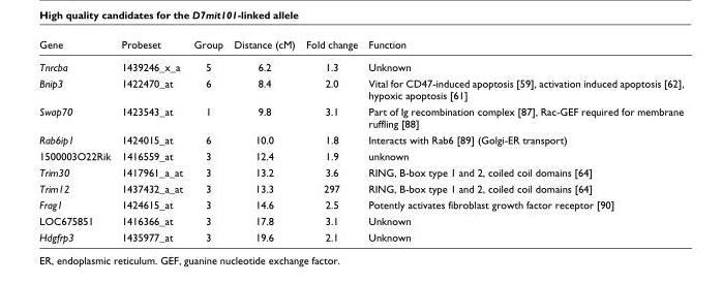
<table><thead><tr><td>Gene</td><td>Probeset</td><td>Group</td><td>Distance (cM)</td><td>Fold change</td><td>Function</td></tr></thead><tbody><tr><td>Tnrcba</td><td>1439246_x_a</td><td>5</td><td>6.2</td><td>1.3</td><td>Unknown</td></tr><tr><td>Bnip3</td><td>1422470_at</td><td>6</td><td>8.4</td><td>2.0</td><td>Vital for CD47-induced apoptosis [59], activation induced apoptosis [62], hypoxic apoptosis [61]</td></tr><tr><td>Swap70</td><td>1423543_at</td><td>1</td><td>9.8</td><td>3.1</td><td>Part of Ig recombination complex [87], Rac-GEF required for membrane ruffling [88]</td></tr><tr><td>Rab6ip1</td><td>1424015_at</td><td>6</td><td>10.0</td><td>1.8</td><td>Interacts with Rab6 [89] (Golgi-ER transport)</td></tr><tr><td>1500003O22Rik</td><td>1416559_at</td><td>3</td><td>12.4</td><td>1.9</td><td>unknown</td></tr><tr><td>Trim30</td><td>1417961_a_at</td><td>3</td><td>13.2</td><td>3.6</td><td>RING, B-box type 1 and 2, coiled coil domains [64]</td></tr><tr><td>Trim12</td><td>1437432_a_at</td><td>3</td><td>13.3</td><td>297</td><td>RING, B-box type 1 and 2, coiled coil domains [64]</td></tr><tr><td>Frag1</td><td>1424615_at</td><td>3</td><td>14.6</td><td>2.5</td><td>Potently activates fibroblast growth factor receptor [90]</td></tr><tr><td>LOC675851</td><td>1416366_at</td><td>3</td><td>17.8</td><td>3.1</td><td>Unknown</td></tr><tr><td>Hdgfrp3</td><td>1435977_at</td><td>3</td><td>19.6</td><td>2.1</td><td>Unknown</td></tr></tbody></table>